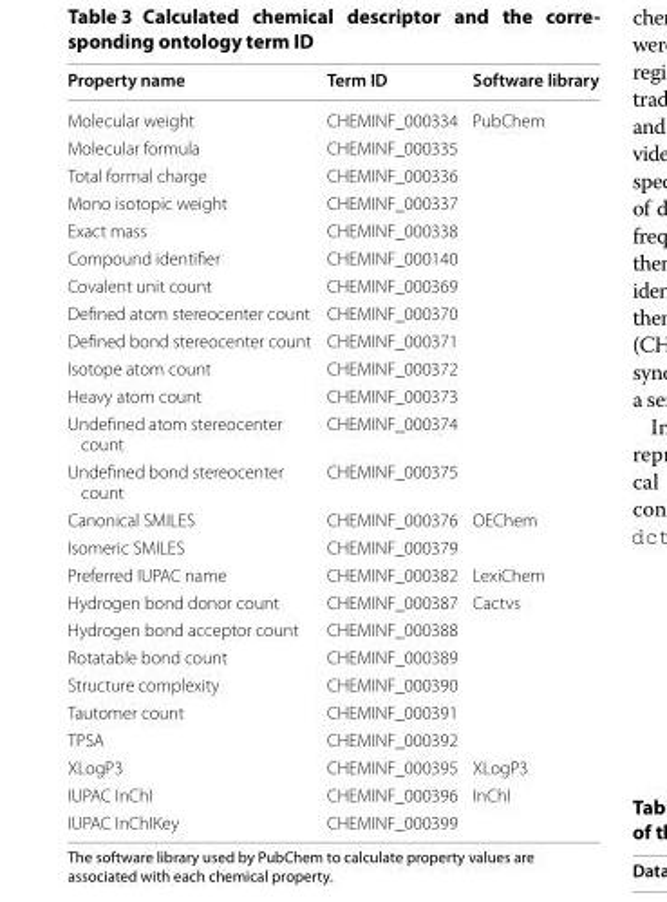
<table><thead><tr><td>Property name</td><td>Term ID</td><td>Software library</td></tr></thead><tbody><tr><td>Molecular weight</td><td>CHEMINF_000334</td><td rowspan="13">PubChem</td></tr><tr><td>Molecular formula</td><td>CHEMINF_000335</td></tr><tr><td>Total formal charge</td><td>CHEMINF_000336</td></tr><tr><td>Mono isotopic weight</td><td>CHEMINF_000337</td></tr><tr><td>Exact mass</td><td>CHEMINF_000338</td></tr><tr><td>Compound identifier</td><td>CHEMINF_000140</td></tr><tr><td>Covalent unit count</td><td>CHEMINF_000369</td></tr><tr><td>Defined atom stereocenter count</td><td>CHEMINF_000370</td></tr><tr><td>Defined bond stereocenter count</td><td>CHEMINF_000371</td></tr><tr><td>Isotope atom count</td><td>CHEMINF_000372</td></tr><tr><td>Heavy atom count</td><td>CHEMINF_000373</td></tr><tr><td>Undefined atom stereocenter count</td><td>CHEMINF_000374</td></tr><tr><td>Undefined bond stereocenter count</td><td>CHEMINF_000375</td></tr><tr><td>Canonical SMILES</td><td>CHEMINF_000376</td><td rowspan="2">OEChem</td></tr><tr><td>Isomeric SMILES</td><td>CHEMINF_000379</td></tr><tr><td>Preferred IUPAC name</td><td>CHEMINF_000382</td><td>LexiChem</td></tr><tr><td>Hydrogen bond donor count</td><td>CHEMINF_000387</td><td rowspan="6">Cactvs</td></tr><tr><td>Hydrogen bond acceptor count</td><td>CHEMINF_000388</td></tr><tr><td>Rotatable bond count</td><td>CHEMINF_000389</td></tr><tr><td>Structure complexity</td><td>CHEMINF_000390</td></tr><tr><td>Tautomer count</td><td>CHEMINF_000391</td></tr><tr><td>TPSA</td><td>CHEMINF_000392</td></tr><tr><td>XLogP3</td><td>CHEMINF_000395</td><td>XLogP3</td></tr><tr><td>IUPAC InChI</td><td>CHEMINF_000396</td><td rowspan="2">InChI</td></tr><tr><td>IUPAC InChIKey</td><td>CHEMINF_000399</td></tr></tbody></table>